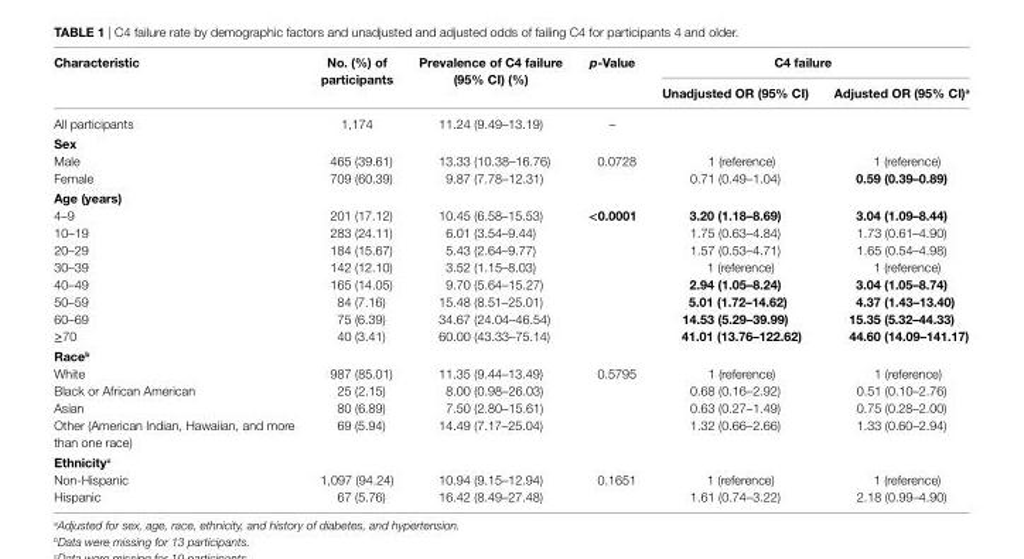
<table><thead><tr><td rowspan="2">characteristic</td><td rowspan="2">no. (%) of participants</td><td rowspan="2">Prevalence of c4 failure (95% ci) (%)</td><td rowspan="2">p-Value</td><td colspan="2">c4 failure</td></tr><tr><td>Unadjusted Or (95% ci)</td><td>adjusted Or (95% ci)<sup>a</sup></td></tr></thead><tbody><tr><td>All participants</td><td>1,174</td><td>11.24 (9.49–13.19)</td><td>–</td><td></td><td></td></tr><tr><td colspan="6">sex</td></tr><tr><td>Male</td><td>465 (39.61)</td><td>13.33 (10.38–16.76)</td><td rowspan="2">0.0728</td><td>1 (reference)</td><td>1 (reference)</td></tr><tr><td>Female</td><td>709 (60.39)</td><td>9.87 (7.78–12.31)</td><td>0.71 (0.49–1.04)</td><td>0.59 (0.39–0.89)</td></tr><tr><td colspan="6">age (years)</td></tr><tr><td>4–9</td><td>201 (17.12)</td><td>10.45 (6.58–15.53)</td><td rowspan="8">&lt;0.0001</td><td>3.20 (1.18–8.69)</td><td>3.04 (1.09–8.44)</td></tr><tr><td>10–19</td><td>283 (24.11)</td><td>6.01 (3.54–9.44)</td><td>1.75 (0.63–4.84)</td><td>1.73 (0.61–4.90)</td></tr><tr><td>20–29</td><td>184 (15.67)</td><td>5.43 (2.64–9.77)</td><td>1.57 (0.53–4.71)</td><td>1.65 (0.54–4.98)</td></tr><tr><td>30–39</td><td>142 (12.10)</td><td>3.52 (1.15–8.03)</td><td>1 (reference)</td><td>1 (reference)</td></tr><tr><td>40–49</td><td>165 (14.05)</td><td>9.70 (5.64–15.27)</td><td>2.94 (1.05–8.24)</td><td>3.04 (1.05–8.74)</td></tr><tr><td>50–59</td><td>84 (7.16)</td><td>15.48 (8.51–25.01)</td><td>5.01 (1.72–14.62)</td><td>4.37 (1.43–13.40)</td></tr><tr><td>60–69</td><td>75 (6.39)</td><td>34.67 (24.04–46.54)</td><td>14.53 (5.29–39.99)</td><td>15.35 (5.32–44.33)</td></tr><tr><td>≥70</td><td>40 (3.41)</td><td>60.00 (43.33–75.14)</td><td>41.01 (13.76–122.62)</td><td>44.60 (14.09–141.17)</td></tr><tr><td colspan="6">race<sup>b</sup></td></tr><tr><td>White</td><td>987 (85.01)</td><td>11.35 (9.44–13.49)</td><td rowspan="4">0.5795</td><td>1 (reference)</td><td>1 (reference)</td></tr><tr><td>Black or African American</td><td>25 (2.15)</td><td>8.00 (0.98–26.03)</td><td>0.68 (0.16–2.92)</td><td>0.51 (0.10–2.76)</td></tr><tr><td>Asian</td><td>80 (6.89)</td><td>7.50 (2.80–15.61)</td><td>0.63 (0.27–1.49)</td><td>0.75 (0.28–2.00)</td></tr><tr><td>Other (American Indian, Hawaiian, and more than one race)</td><td>69 (5.94)</td><td>14.49 (7.17–25.04)</td><td>1.32 (0.66–2.66)</td><td>1.33 (0.60–2.94)</td></tr><tr><td colspan="6">ethnicity<sup>c</sup></td></tr><tr><td>Non-Hispanic</td><td>1,097 (94.24)</td><td>10.94 (9.15–12.94)</td><td rowspan="2">0.1651</td><td>1 (reference)</td><td>1 (reference)</td></tr><tr><td>Hispanic</td><td>67 (5.76)</td><td>16.42 (8.49–27.48)</td><td>1.61 (0.74–3.22)</td><td>2.18 (0.99–4.90)</td></tr></tbody></table>